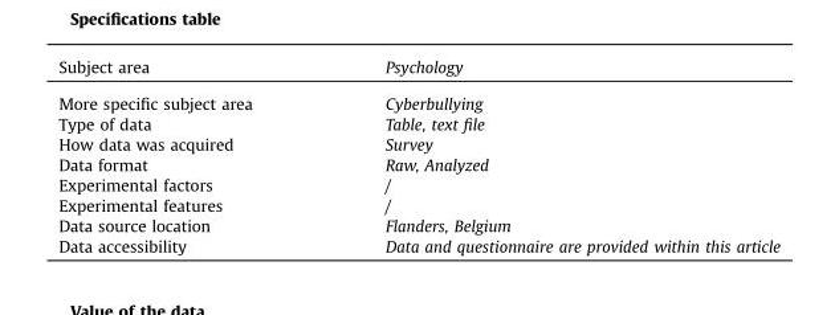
<table><thead><tr><td>Subject area</td><td>Psychology</td></tr></thead><tbody><tr><td>More specific subject area</td><td>Cyberbullying</td></tr><tr><td>Type of data</td><td>Table, text file</td></tr><tr><td>How data was acquired</td><td>Survey</td></tr><tr><td>Data format</td><td>Raw, Analyzed</td></tr><tr><td>Experimental factors</td><td>/</td></tr><tr><td>Experimental features</td><td>/</td></tr><tr><td>Data source location</td><td>Flanders, Belgium</td></tr><tr><td>Data accessibility</td><td>Data and questionnaire are provided within this article</td></tr></tbody></table>